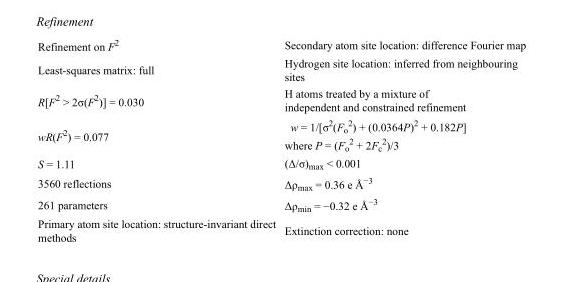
<table><tbody><tr><td>Refinement on F<sup>2</sup></td><td>Secondary atom site location: difference Fourier map</td></tr><tr><td>Least-squares matrix: full</td><td>Hydrogen site location: inferred from neighbouring sites</td></tr><tr><td>R[F<sup>2</sup> &gt; 2σ(F<sup>2</sup>)] = 0.030</td><td>H atoms treated by a mixture of independent and constrained refinement</td></tr><tr><td>wR(F<sup>2</sup>) = 0.077</td><td>w = 1/[σ<sup>2</sup>(F<sub>o</sub> <sup>2</sup>) + (0.0364P)<sup>2</sup> + 0.182P] where P = (F<sub>o</sub> <sup>2</sup> + 2F<sub>c</sub> <sup>2</sup>)/3</td></tr><tr><td>S = 1.11</td><td>(Δ/σ)<sub>max</sub> &lt; 0.001</td></tr><tr><td>3560 reflections</td><td>Δρ<sub>max</sub> = 0.36 e Å<sup>−3</sup></td></tr><tr><td>261 parameters</td><td>Δρ<sub>min</sub> = −0.32 e Å<sup>−3</sup></td></tr><tr><td>Primary atom site location: structure-invariant direct methods</td><td>Extinction correction: none</td></tr></tbody></table>